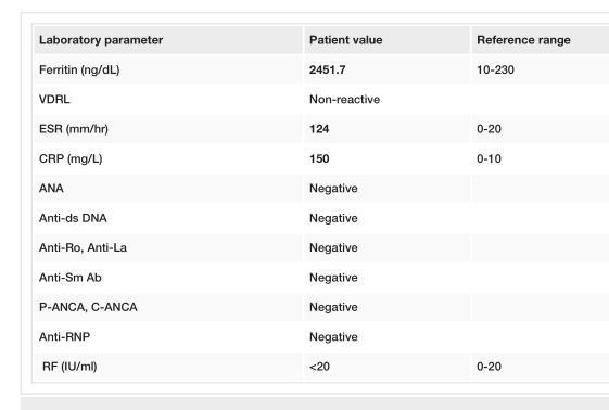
<table><tbody><tr><td>Laboratory parameter</td><td>Patient value</td><td>Reference range</td></tr><tr><td>Ferritin (ng/dL)</td><td>2451.7</td><td>10-230</td></tr><tr><td>VDRL</td><td>Non-reactive</td><td></td></tr><tr><td>ESR (mm/hr)</td><td>124</td><td>0-20</td></tr><tr><td>CRP (mg/L)</td><td>150</td><td>0-10</td></tr><tr><td>ANA</td><td>Negative</td><td></td></tr><tr><td>Anti-ds DNA</td><td>Negative</td><td></td></tr><tr><td>Anti-Ro, Anti-La</td><td>Negative</td><td></td></tr><tr><td>Anti-Sm Ab</td><td>Negative</td><td></td></tr><tr><td>P-ANCA, C-ANCA</td><td>Negative</td><td></td></tr><tr><td>Anti-RNP</td><td>Negative</td><td></td></tr><tr><td>RF (IU/ml)</td><td>&lt;20</td><td>0-20</td></tr></tbody></table>